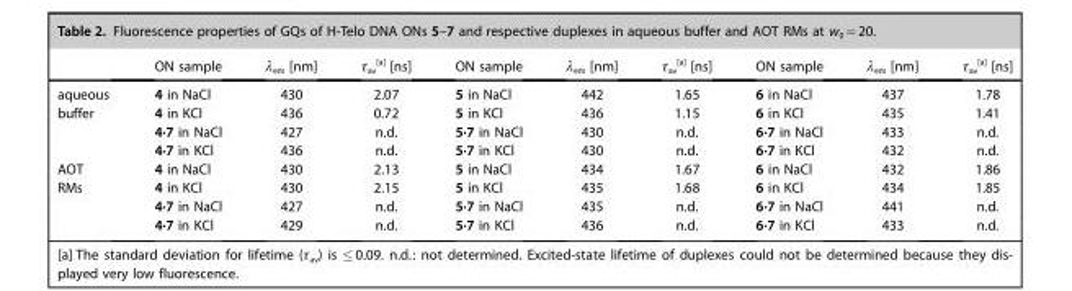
<table><thead><tr><td></td><td>ON sample</td><td>λ<sub>em</sub> [nm]</td><td>τ<sub>av</sub> <sup>[a]</sup> [ns]</td><td>ON sample</td><td>λ<sub>em</sub> [nm]</td><td>τ<sub>av</sub> <sup>[a]</sup> [ns]</td><td>ON sample</td><td>λ<sub>em</sub> [nm]</td><td>τ<sub>av</sub> <sup>[a]</sup> [ns]</td></tr></thead><tbody><tr><td>aqueous</td><td>4 in NaCl</td><td>430</td><td>2.07</td><td>5 in NaCl</td><td>442</td><td>1.65</td><td>6 in NaCl</td><td>437</td><td>1.78</td></tr><tr><td rowspan="3">buffer</td><td>4 in KCl</td><td>436</td><td>0.72</td><td>5 in KCl</td><td>436</td><td>1.15</td><td>6 in KCl</td><td>435</td><td>1.41</td></tr><tr><td>4·7 in NaCl</td><td>427</td><td>n.d.</td><td>5·7 in NaCl</td><td>430</td><td>n.d.</td><td>6·7 in NaCl</td><td>433</td><td>n.d.</td></tr><tr><td>4·7 in KCl</td><td>436</td><td>n.d.</td><td>5·7 in KCl</td><td>430</td><td>n.d.</td><td>6·7 in KCl</td><td>432</td><td>n.d.</td></tr><tr><td>AOT</td><td>4 in NaCl</td><td>430</td><td>2.13</td><td>5 in NaCl</td><td>434</td><td>1.67</td><td>6 in NaCl</td><td>432</td><td>1.86</td></tr><tr><td rowspan="3">RMs</td><td>4 in KCl</td><td>430</td><td>2.15</td><td>5 in KCl</td><td>435</td><td>1.68</td><td>6 in KCl</td><td>434</td><td>1.85</td></tr><tr><td>4·7 in NaCl</td><td>427</td><td>n.d.</td><td>5·7 in NaCl</td><td>435</td><td>n.d.</td><td>6·7 in NaCl</td><td>441</td><td>n.d.</td></tr><tr><td>4·7 in KCl</td><td>429</td><td>n.d.</td><td>5·7 in KCl</td><td>436</td><td>n.d.</td><td>6·7 in KCl</td><td>433</td><td>n.d.</td></tr></tbody></table>